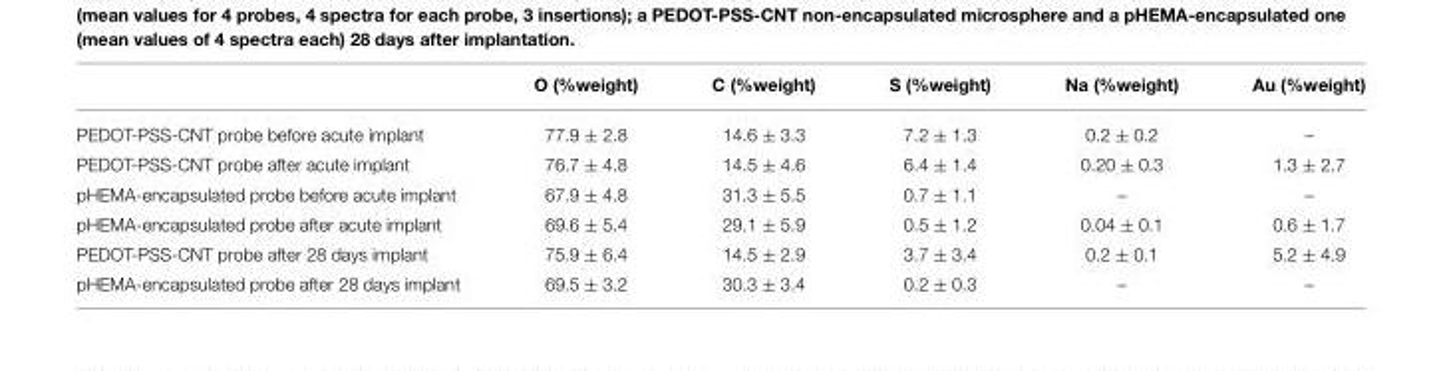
<table><thead><tr><td></td><td>O (%weight)</td><td>C (%weight)</td><td>S (%weight)</td><td>Na (%weight)</td><td>Au (%weight)</td></tr></thead><tbody><tr><td>PEDOT-PSS-CNT probe before acute implant</td><td>77.9 ± 2.8</td><td>14.6 ± 3.3</td><td>7.2 ± 1.3</td><td>0.2 ± 0.2</td><td>–</td></tr><tr><td>PEDOT-PSS-CNT probe after acute implant</td><td>76.7 ± 4.8</td><td>14.5 ± 4.6</td><td>6.4 ± 1.4</td><td>0.20 ± 0.3</td><td>1.3 ± 2.7</td></tr><tr><td>pHEMA-encapsulated probe before acute implant</td><td>67.9 ± 4.8</td><td>31.3 ± 5.5</td><td>0.7 ± 1.1</td><td>–</td><td>–</td></tr><tr><td>pHEMA-encapsulated probe after acute implant</td><td>69.6 ± 5.4</td><td>29.1 ± 5.9</td><td>0.5 ± 1.2</td><td>0.04 ± 0.1</td><td>0.6 ± 1.7</td></tr><tr><td>PEDOT-PSS-CNT probe after 28 days implant</td><td>75.9 ± 6.4</td><td>14.5 ± 2.9</td><td>3.7 ± 3.4</td><td>0.2 ± 0.1</td><td>5.2 ± 4.9</td></tr><tr><td>pHEMA-encapsulated probe after 28 days implant</td><td>69.5 ± 3.2</td><td>30.3 ± 3.4</td><td>0.2 ± 0.3</td><td>–</td><td>–</td></tr></tbody></table>